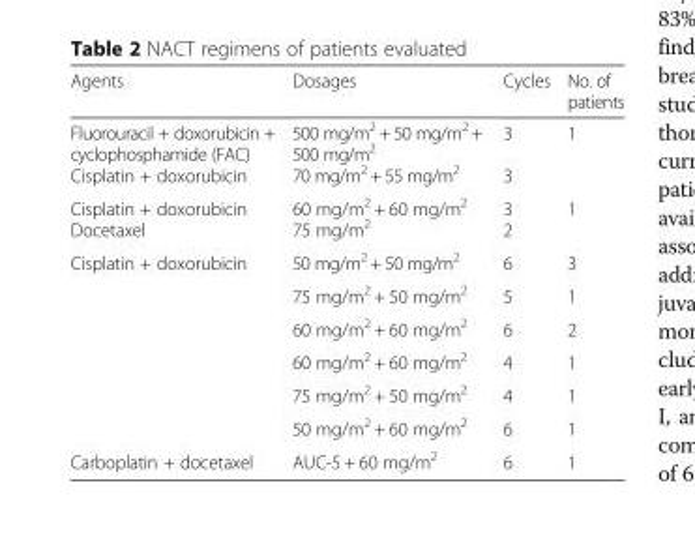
<table><thead><tr><td>Agents</td><td>Dosages</td><td>Cycles</td><td>No. of patients</td></tr></thead><tbody><tr><td>Fluorouracil + doxorubicin + cyclophosphamide (FAC) Cisplatin + doxorubicin</td><td>500 mg/m<sup>2</sup> + 50 mg/m<sup>2</sup> + 500 mg/m<sup>2</sup> 70 mg/m<sup>2</sup> + 55 mg/m<sup>2</sup></td><td>3 3</td><td>1</td></tr><tr><td>Cisplatin + doxorubicin Docetaxel</td><td>60 mg/m<sup>2</sup> + 60 mg/m<sup>2</sup> 75 mg/m<sup>2</sup></td><td>3 2</td><td>1</td></tr><tr><td rowspan="6">Cisplatin + doxorubicin</td><td>50 mg/m<sup>2</sup> + 50 mg/m<sup>2</sup></td><td>6</td><td>3</td></tr><tr><td>75 mg/m<sup>2</sup> + 50 mg/m<sup>2</sup></td><td>5</td><td>1</td></tr><tr><td>60 mg/m<sup>2</sup> + 60 mg/m<sup>2</sup></td><td>6</td><td>2</td></tr><tr><td>60 mg/m<sup>2</sup> + 60 mg/m<sup>2</sup></td><td>4</td><td>1</td></tr><tr><td>75 mg/m<sup>2</sup> + 50 mg/m<sup>2</sup></td><td>4</td><td>1</td></tr><tr><td>50 mg/m<sup>2</sup> + 60 mg/m<sup>2</sup></td><td>6</td><td>1</td></tr><tr><td>Carboplatin + docetaxel</td><td>AUC-5 + 60 mg/m<sup>2</sup></td><td>6</td><td>1</td></tr></tbody></table>